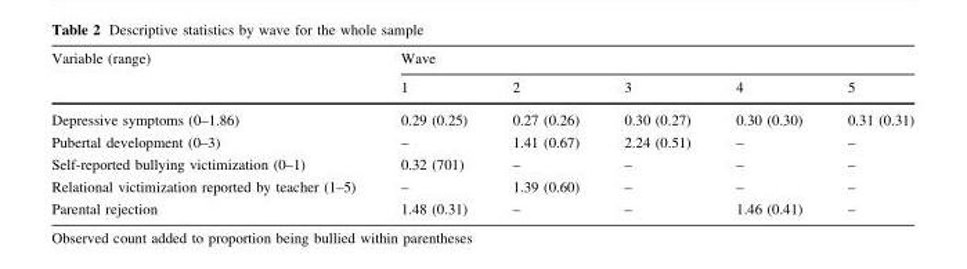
<table><thead><tr><td rowspan="2">Variable (range)</td><td colspan="5">Wave</td></tr><tr><td>1</td><td>2</td><td>3</td><td>4</td><td>5</td></tr></thead><tbody><tr><td>Depressive symptoms (0–1.86)</td><td>0.29 (0.25)</td><td>0.27 (0.26)</td><td>0.30 (0.27)</td><td>0.30 (0.30)</td><td>0.31 (0.31)</td></tr><tr><td>Pubertal development (0–3)</td><td>–</td><td>1.41 (0.67)</td><td>2.24 (0.51)</td><td>–</td><td>–</td></tr><tr><td>Self-reported bullying victimization (0–1)</td><td>0.32 (701)</td><td>–</td><td>–</td><td>–</td><td>–</td></tr><tr><td>Relational victimization reported by teacher (1–5)</td><td>–</td><td>1.39 (0.60)</td><td>–</td><td>–</td><td>–</td></tr><tr><td>Parental rejection</td><td>1.48 (0.31)</td><td>–</td><td>–</td><td>1.46 (0.41)</td><td>–</td></tr></tbody></table>